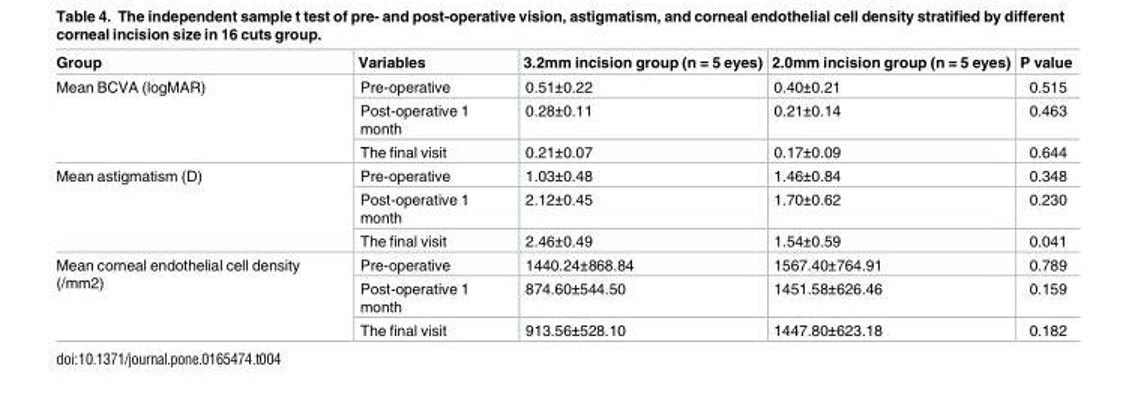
<table><thead><tr><td>Group</td><td>Variables</td><td>3.2mm incision group (n = 5 eyes)</td><td>2.0mm incision group (n = 5 eyes)</td><td>P value</td></tr></thead><tbody><tr><td rowspan="3">Mean BCVA (logMAR)</td><td>Pre-operative</td><td>0.51±0.22</td><td>0.40±0.21</td><td>0.515</td></tr><tr><td>Post-operative 1 month</td><td>0.28±0.11</td><td>0.21±0.14</td><td>0.463</td></tr><tr><td>The final visit</td><td>0.21±0.07</td><td>0.17±0.09</td><td>0.644</td></tr><tr><td rowspan="3">Mean astigmatism (D)</td><td>Pre-operative</td><td>1.03±0.48</td><td>1.46±0.84</td><td>0.348</td></tr><tr><td>Post-operative 1 month</td><td>2.12±0.45</td><td>1.70±0.62</td><td>0.230</td></tr><tr><td>The final visit</td><td>2.46±0.49</td><td>1.54±0.59</td><td>0.041</td></tr><tr><td rowspan="3">Mean corneal endothelial cell density (/mm2)</td><td>Pre-operative</td><td>1440.24±868.84</td><td>1567.40±764.91</td><td>0.789</td></tr><tr><td>Post-operative 1 month</td><td>874.60±544.50</td><td>1451.58±626.46</td><td>0.159</td></tr><tr><td>The final visit</td><td>913.56±528.10</td><td>1447.80±623.18</td><td>0.182</td></tr></tbody></table>